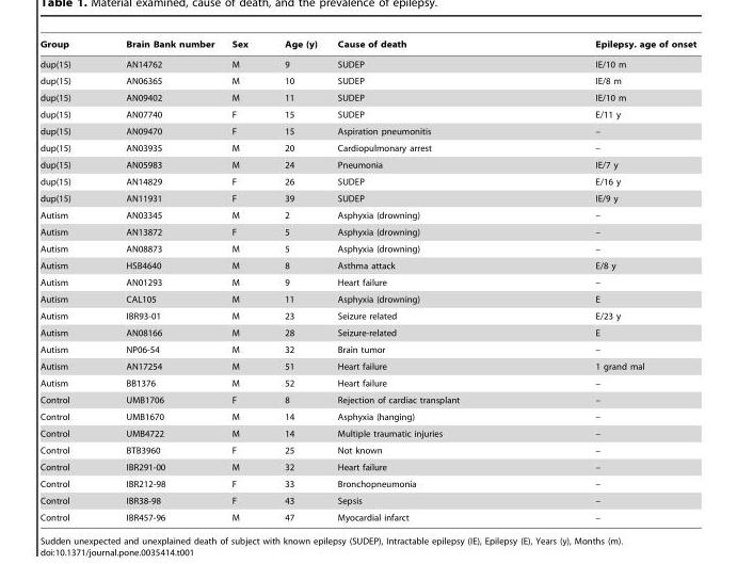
<table><thead><tr><td>Group</td><td>Brain Bank number</td><td>Sex</td><td>Age (y)</td><td>Cause of death</td><td>Epilepsy. age of onset</td></tr></thead><tbody><tr><td>dup(15)</td><td>AN14762</td><td>M</td><td>9</td><td>SUDEP</td><td>IE/10 m</td></tr><tr><td>dup(15)</td><td>AN06365</td><td>M</td><td>10</td><td>SUDEP</td><td>IE/8 m</td></tr><tr><td>dup(15)</td><td>AN09402</td><td>M</td><td>11</td><td>SUDEP</td><td>IE/10 m</td></tr><tr><td>dup(15)</td><td>AN07740</td><td>F</td><td>15</td><td>SUDEP</td><td>E/11 y</td></tr><tr><td>dup(15)</td><td>AN09470</td><td>F</td><td>15</td><td>Aspiration pneumonitis</td><td>–</td></tr><tr><td>dup(15)</td><td>AN03935</td><td>M</td><td>20</td><td>Cardiopulmonary arrest</td><td>–</td></tr><tr><td>dup(15)</td><td>AN05983</td><td>M</td><td>24</td><td>Pneumonia</td><td>IE/7 y</td></tr><tr><td>dup(15)</td><td>AN14829</td><td>F</td><td>26</td><td>SUDEP</td><td>E/16 y</td></tr><tr><td>dup(15)</td><td>AN11931</td><td>F</td><td>39</td><td>SUDEP</td><td>IE/9 y</td></tr><tr><td>Autism</td><td>AN03345</td><td>M</td><td>2</td><td>Asphyxia (drowning)</td><td>–</td></tr><tr><td>Autism</td><td>AN13872</td><td>F</td><td>5</td><td>Asphyxia (drowning)</td><td>–</td></tr><tr><td>Autism</td><td>AN08873</td><td>M</td><td>5</td><td>Asphyxia (drowning)</td><td>–</td></tr><tr><td>Autism</td><td>HSB4640</td><td>M</td><td>8</td><td>Asthma attack</td><td>E/8 y</td></tr><tr><td>Autism</td><td>AN01293</td><td>M</td><td>9</td><td>Heart failure</td><td>–</td></tr><tr><td>Autism</td><td>CAL105</td><td>M</td><td>11</td><td>Asphyxia (drowning)</td><td>E</td></tr><tr><td>Autism</td><td>IBR93-01</td><td>M</td><td>23</td><td>Seizure related</td><td>E/23 y</td></tr><tr><td>Autism</td><td>AN08166</td><td>M</td><td>28</td><td>Seizure-related</td><td>E</td></tr><tr><td>Autism</td><td>NP06-54</td><td>M</td><td>32</td><td>Brain tumor</td><td>–</td></tr><tr><td>Autism</td><td>AN17254</td><td>M</td><td>51</td><td>Heart failure</td><td>1 grand mal</td></tr><tr><td>Autism</td><td>BB1376</td><td>M</td><td>52</td><td>Heart failure</td><td>–</td></tr><tr><td>Control</td><td>UMB1706</td><td>F</td><td>8</td><td>Rejection of cardiac transplant</td><td>–</td></tr><tr><td>Control</td><td>UMB1670</td><td>M</td><td>14</td><td>Asphyxia (hanging)</td><td>–</td></tr><tr><td>Control</td><td>UMB4722</td><td>M</td><td>14</td><td>Multiple traumatic injuries</td><td>–</td></tr><tr><td>Control</td><td>BTB3960</td><td>F</td><td>25</td><td>Not known</td><td>–</td></tr><tr><td>Control</td><td>IBR291-00</td><td>M</td><td>32</td><td>Heart failure</td><td>–</td></tr><tr><td>Control</td><td>IBR212-98</td><td>F</td><td>33</td><td>Bronchopneumonia</td><td>–</td></tr><tr><td>Control</td><td>IBR38-98</td><td>F</td><td>43</td><td>Sepsis</td><td>–</td></tr><tr><td>Control</td><td>IBR457-96</td><td>M</td><td>47</td><td>Myocardial infarct</td><td>–</td></tr></tbody></table>